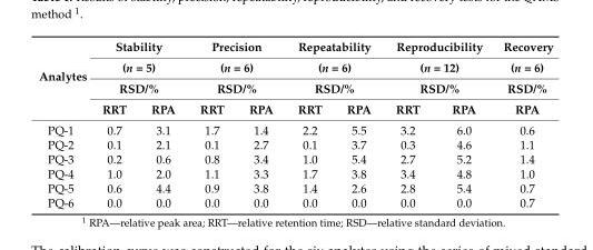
<table><thead><tr><td rowspan="4">Analytes</td><td rowspan="3" colspan="2">Stability (n = 5) RSD/%</td><td rowspan="3" colspan="2">Precision (n = 6) RSD/%</td><td rowspan="3" colspan="2">Repeatability (n = 6) RSD/%</td><td rowspan="3" colspan="2">Reproducibility (n = 12) RSD/%</td><td rowspan="4">Recovery (n = 6) RSD/% RPA</td></tr><tr></tr><tr></tr><tr><td>RRT</td><td>RPA</td><td>RRT</td><td>RPA</td><td>RRT</td><td>RPA</td><td>RRT</td><td>RPA</td></tr></thead><tbody><tr><td>PQ-1</td><td>0.7</td><td>3.1</td><td>1.7</td><td>1.4</td><td>2.2</td><td>5.5</td><td>3.2</td><td>6.0</td><td>0.6</td></tr><tr><td>PQ-2</td><td>0.1</td><td>2.1</td><td>0.1</td><td>2.7</td><td>0.1</td><td>3.7</td><td>0.3</td><td>4.6</td><td>1.1</td></tr><tr><td>PQ-3</td><td>0.2</td><td>0.6</td><td>0.8</td><td>3.4</td><td>1.0</td><td>5.4</td><td>2.7</td><td>5.2</td><td>1.4</td></tr><tr><td>PQ-4</td><td>1.0</td><td>2.0</td><td>1.1</td><td>3.3</td><td>1.7</td><td>3.8</td><td>3.4</td><td>4.8</td><td>1.0</td></tr><tr><td>PQ-5</td><td>0.6</td><td>4.4</td><td>0.9</td><td>3.8</td><td>1.4</td><td>2.6</td><td>2.8</td><td>5.4</td><td>0.7</td></tr><tr><td>PQ-6</td><td>0.0</td><td>0.0</td><td>0.0</td><td>0.0</td><td>0.0</td><td>0.0</td><td>0.0</td><td>0.0</td><td>0.7</td></tr></tbody></table>